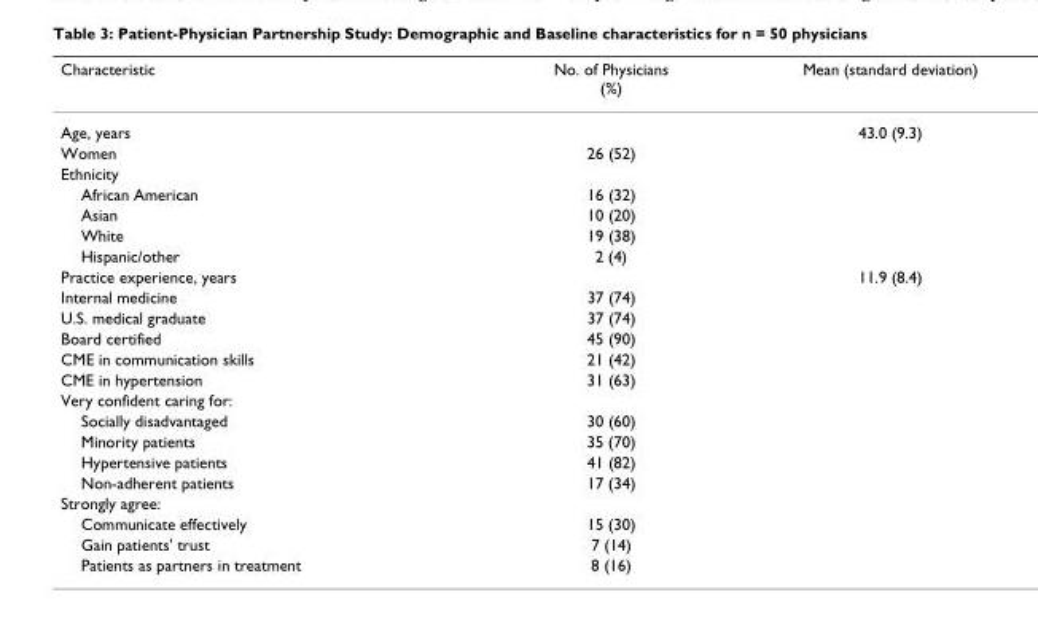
<table><thead><tr><td>Characteristic</td><td>No. of Physicians (%)</td><td>Mean (standard deviation)</td></tr></thead><tbody><tr><td>Age, years</td><td></td><td>43.0 (9.3)</td></tr><tr><td>Women</td><td>26 (52)</td><td></td></tr><tr><td colspan="3">Ethnicity</td></tr><tr><td>African American</td><td>16 (32)</td><td></td></tr><tr><td>Asian</td><td>10 (20)</td><td></td></tr><tr><td>White</td><td>19 (38)</td><td></td></tr><tr><td>Hispanic/other</td><td>2 (4)</td><td></td></tr><tr><td>Practice experience, years</td><td></td><td>11.9 (8.4)</td></tr><tr><td>Internal medicine</td><td>37 (74)</td><td></td></tr><tr><td>U.S. medical graduate</td><td>37 (74)</td><td></td></tr><tr><td>Board certified</td><td>45 (90)</td><td></td></tr><tr><td>CME in communication skills</td><td>21 (42)</td><td></td></tr><tr><td>CME in hypertension</td><td>31 (63)</td><td></td></tr><tr><td colspan="3">Very confident caring for:</td></tr><tr><td>Socially disadvantaged</td><td>30 (60)</td><td></td></tr><tr><td>Minority patients</td><td>35 (70)</td><td></td></tr><tr><td>Hypertensive patients</td><td>41 (82)</td><td></td></tr><tr><td>Non-adherent patients</td><td>17 (34)</td><td></td></tr><tr><td colspan="3">Strongly agree:</td></tr><tr><td>Communicate effectively</td><td>15 (30)</td><td></td></tr><tr><td>Gain patients&#x27; trust</td><td>7 (14)</td><td></td></tr><tr><td>Patients as partners in treatment</td><td>8 (16)</td><td></td></tr></tbody></table>